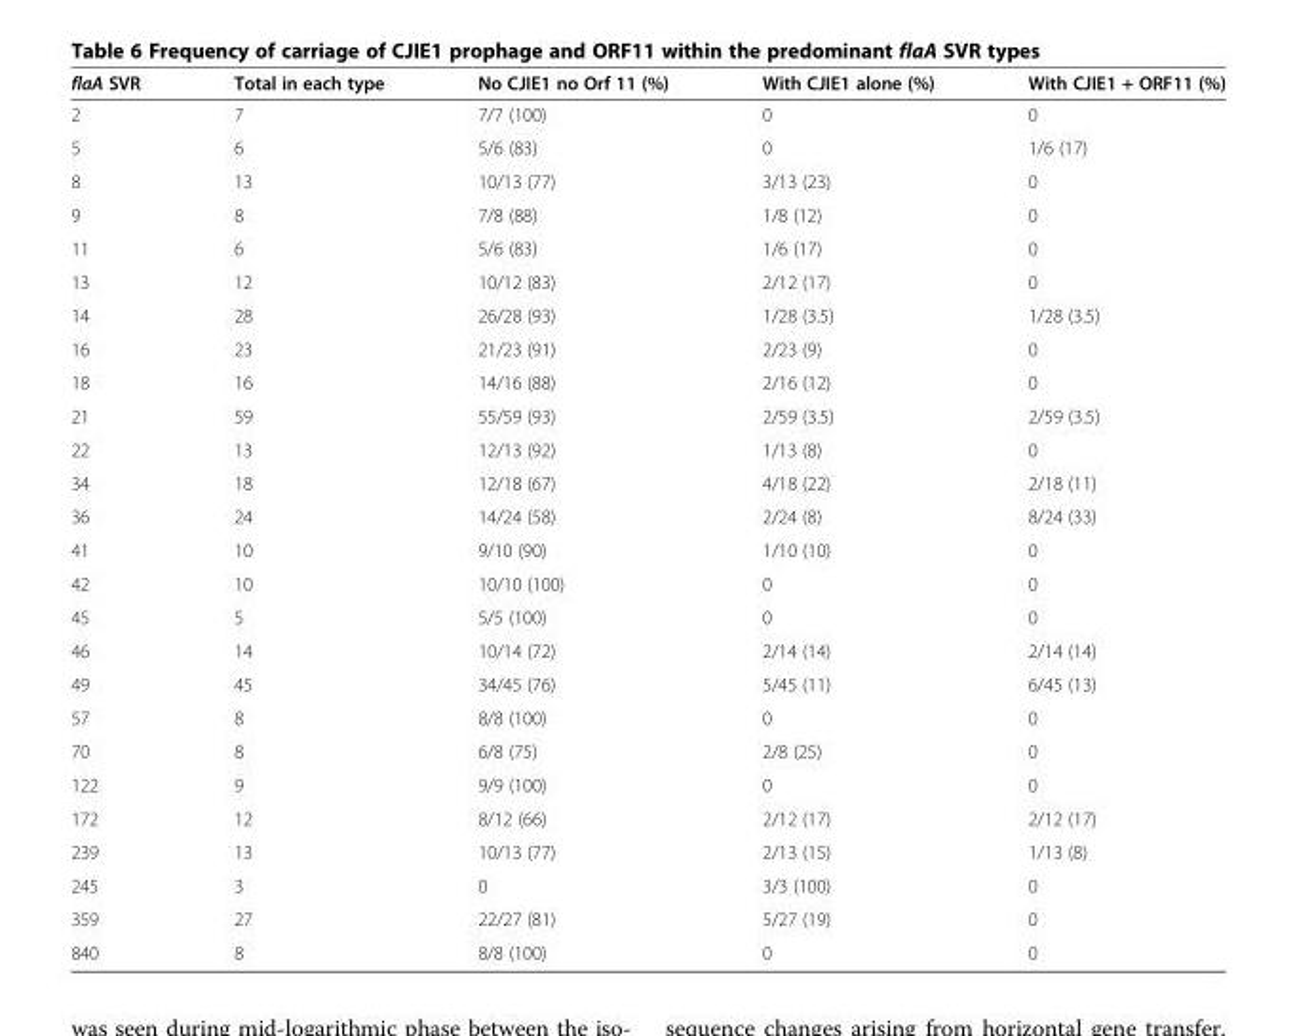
<table><thead><tr><td>flaA SVR</td><td>Total in each type</td><td>No CJIE1 no Orf 11 (%)</td><td>With CJIE1 alone (%)</td><td>With CJIE1 + ORF11 (%)</td></tr></thead><tbody><tr><td>2</td><td>7</td><td>7/7 (100)</td><td>0</td><td>0</td></tr><tr><td>5</td><td>6</td><td>5/6 (83)</td><td>0</td><td>1/6 (17)</td></tr><tr><td>8</td><td>13</td><td>10/13 (77)</td><td>3/13 (23)</td><td>0</td></tr><tr><td>9</td><td>8</td><td>7/8 (88)</td><td>1/8 (12)</td><td>0</td></tr><tr><td>11</td><td>6</td><td>5/6 (83)</td><td>1/6 (17)</td><td>0</td></tr><tr><td>13</td><td>12</td><td>10/12 (83)</td><td>2/12 (17)</td><td>0</td></tr><tr><td>14</td><td>28</td><td>26/28 (93)</td><td>1/28 (3.5)</td><td>1/28 (3.5)</td></tr><tr><td>16</td><td>23</td><td>21/23 (91)</td><td>2/23 (9)</td><td>0</td></tr><tr><td>18</td><td>16</td><td>14/16 (88)</td><td>2/16 (12)</td><td>0</td></tr><tr><td>21</td><td>59</td><td>55/59 (93)</td><td>2/59 (3.5)</td><td>2/59 (3.5)</td></tr><tr><td>22</td><td>13</td><td>12/13 (92)</td><td>1/13 (8)</td><td>0</td></tr><tr><td>34</td><td>18</td><td>12/18 (67)</td><td>4/18 (22)</td><td>2/18 (11)</td></tr><tr><td>36</td><td>24</td><td>14/24 (58)</td><td>2/24 (8)</td><td>8/24 (33)</td></tr><tr><td>41</td><td>10</td><td>9/10 (90)</td><td>1/10 (10)</td><td>0</td></tr><tr><td>42</td><td>10</td><td>10/10 (100)</td><td>0</td><td>0</td></tr><tr><td>45</td><td>5</td><td>5/5 (100)</td><td>0</td><td>0</td></tr><tr><td>46</td><td>14</td><td>10/14 (72)</td><td>2/14 (14)</td><td>2/14 (14)</td></tr><tr><td>49</td><td>45</td><td>34/45 (76)</td><td>5/45 (11)</td><td>6/45 (13)</td></tr><tr><td>57</td><td>8</td><td>8/8 (100)</td><td>0</td><td>0</td></tr><tr><td>70</td><td>8</td><td>6/8 (75)</td><td>2/8 (25)</td><td>0</td></tr><tr><td>122</td><td>9</td><td>9/9 (100)</td><td>0</td><td>0</td></tr><tr><td>172</td><td>12</td><td>8/12 (66)</td><td>2/12 (17)</td><td>2/12 (17)</td></tr><tr><td>239</td><td>13</td><td>10/13 (77)</td><td>2/13 (15)</td><td>1/13 (8)</td></tr><tr><td>245</td><td>3</td><td>0</td><td>3/3 (100)</td><td>0</td></tr><tr><td>359</td><td>27</td><td>22/27 (81)</td><td>5/27 (19)</td><td>0</td></tr><tr><td>840</td><td>8</td><td>8/8 (100)</td><td>0</td><td>0</td></tr></tbody></table>